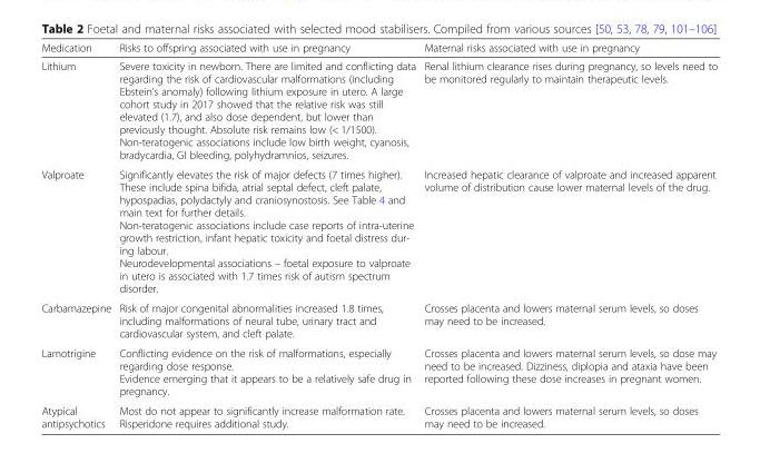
<table><thead><tr><td>Medication</td><td>Risks to offspring associated with use in pregnancy</td><td>Maternal risks associated with use in pregnancy</td></tr></thead><tbody><tr><td>Lithium</td><td>Severe toxicity in newborn. There are limited and conflicting data regarding the risk of cardiovascular malformations (including Ebstein’s anomaly) following lithium exposure in utero. A large cohort study in 2017 showed that the relative risk was still elevated (1.7), and also dose dependent, but lower than previously thought. Absolute risk remains low (&lt; 1/1500). Non-teratogenic associations include low birth weight, cyanosis, bradycardia, GI bleeding, polyhydramnios, seizures.</td><td>Renal lithium clearance rises during pregnancy, so levels need to be monitored regularly to maintain therapeutic levels.</td></tr><tr><td>Valproate</td><td>Significantly elevates the risk of major defects (7 times higher). These include spina bifida, atrial septal defect, cleft palate, hypospadias, polydactyly and craniosynostosis. See Table 4 and main text for further details. Non-teratogenic associations include case reports of intra-uterine growth restriction, infant hepatic toxicity and foetal distress dur- ing labour. Neurodevelopmental associations – foetal exposure to valproate in utero is associated with 1.7 times risk of autism spectrum disorder.</td><td>Increased hepatic clearance of valproate and increased apparent volume of distribution cause lower maternal levels of the drug.</td></tr><tr><td>Carbamazepine</td><td>Risk of major congenital abnormalities increased 1.8 times, including malformations of neural tube, urinary tract and cardiovascular system, and cleft palate.</td><td>Crosses placenta and lowers maternal serum levels, so doses may need to be increased.</td></tr><tr><td>Lamotrigine</td><td>Conflicting evidence on the risk of malformations, especially regarding dose response. Evidence emerging that it appears to be a relatively safe drug in pregnancy.</td><td>Crosses placenta and lowers maternal serum levels, so dose may need to be increased. Dizziness, diplopia and ataxia have been reported following these dose increases in pregnant women.</td></tr><tr><td>Atypical antipsychotics</td><td>Most do not appear to significantly increase malformation rate. Risperidone requires additional study.</td><td>Crosses placenta and lowers maternal serum levels, so doses may need to be increased.</td></tr></tbody></table>